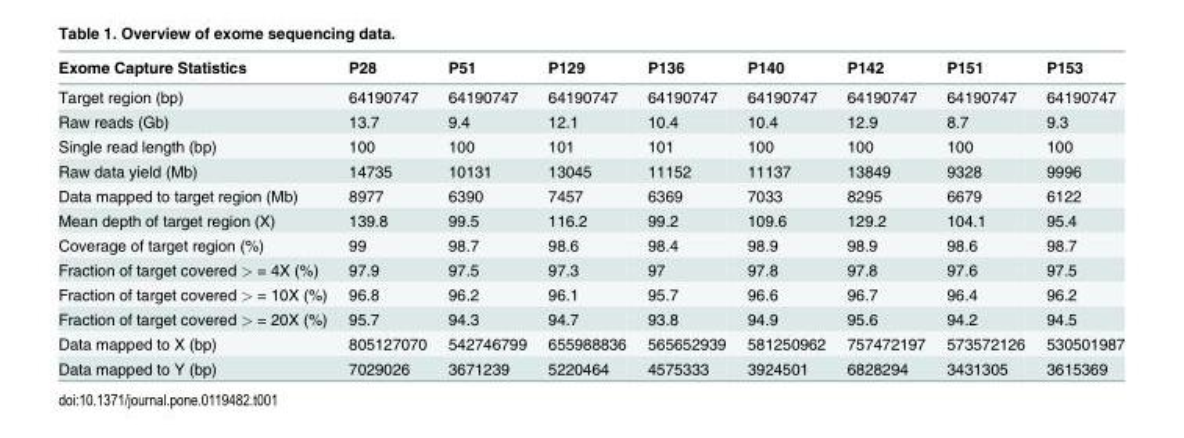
<table><thead><tr><td>Exome Capture Statistics</td><td>P28</td><td>P51</td><td>P129</td><td>P136</td><td>P140</td><td>P142</td><td>P151</td><td>P153</td></tr></thead><tbody><tr><td>Target region (bp)</td><td>64190747</td><td>64190747</td><td>64190747</td><td>64190747</td><td>64190747</td><td>64190747</td><td>64190747</td><td>64190747</td></tr><tr><td>Raw reads (Gb)</td><td>13.7</td><td>9.4</td><td>12.1</td><td>10.4</td><td>10.4</td><td>12.9</td><td>8.7</td><td>9.3</td></tr><tr><td>Single read length (bp)</td><td>100</td><td>100</td><td>101</td><td>101</td><td>100</td><td>100</td><td>100</td><td>100</td></tr><tr><td>Raw data yield (Mb)</td><td>14735</td><td>10131</td><td>13045</td><td>11152</td><td>11137</td><td>13849</td><td>9328</td><td>9996</td></tr><tr><td>Data mapped to target region (Mb)</td><td>8977</td><td>6390</td><td>7457</td><td>6369</td><td>7033</td><td>8295</td><td>6679</td><td>6122</td></tr><tr><td>Mean depth of target region (X)</td><td>139.8</td><td>99.5</td><td>116.2</td><td>99.2</td><td>109.6</td><td>129.2</td><td>104.1</td><td>95.4</td></tr><tr><td>Coverage of target region (%)</td><td>99</td><td>98.7</td><td>98.6</td><td>98.4</td><td>98.9</td><td>98.9</td><td>98.6</td><td>98.7</td></tr><tr><td>Fraction of target covered &gt; = 4X (%)</td><td>97.9</td><td>97.5</td><td>97.3</td><td>97</td><td>97.8</td><td>97.8</td><td>97.6</td><td>97.5</td></tr><tr><td>Fraction of target covered &gt; = 10X (%)</td><td>96.8</td><td>96.2</td><td>96.1</td><td>95.7</td><td>96.6</td><td>96.7</td><td>96.4</td><td>96.2</td></tr><tr><td>Fraction of target covered &gt; = 20X (%)</td><td>95.7</td><td>94.3</td><td>94.7</td><td>93.8</td><td>94.9</td><td>95.6</td><td>94.2</td><td>94.5</td></tr><tr><td>Data mapped to X (bp)</td><td>805127070</td><td>542746799</td><td>655988836</td><td>565652939</td><td>581250962</td><td>757472197</td><td>573572126</td><td>530501987</td></tr><tr><td>Data mapped to Y (bp)</td><td>7029026</td><td>3671239</td><td>5220464</td><td>4575333</td><td>3924501</td><td>6828294</td><td>3431305</td><td>3615369</td></tr></tbody></table>